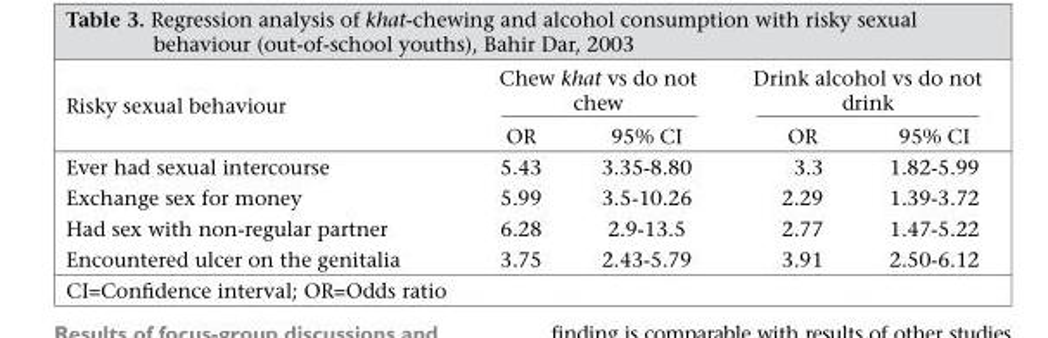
<table><thead><tr><td rowspan="2">Risky sexual behaviour</td><td colspan="2">Chew khat vs do not chew</td><td colspan="2">Drink alcohol vs do not drink</td></tr><tr><td>OR</td><td>95% CI</td><td>OR</td><td>95% CI</td></tr></thead><tbody><tr><td>Ever had sexual intercourse</td><td>5.43</td><td>3.35-8.80</td><td>3.3</td><td>1.82-5.99</td></tr><tr><td>Exchange sex for money</td><td>5.99</td><td>3.5-10.26</td><td>2.29</td><td>1.39-3.72</td></tr><tr><td>Had sex with non-regular partner</td><td>6.28</td><td>2.9-13.5</td><td>2.77</td><td>1.47-5.22</td></tr><tr><td>Encountered ulcer on the genitalia</td><td>3.75</td><td>2.43-5.79</td><td>3.91</td><td>2.50-6.12</td></tr></tbody></table>